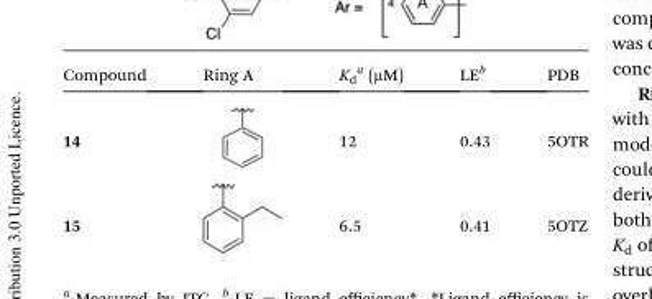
<table><thead><tr><td>Compound</td><td>Ring A</td><td>K<sub>d</sub> <sup>a</sup> (μM)</td><td>LE<sup>b</sup></td><td>PDB</td></tr></thead><tbody><tr><td>14</td><td></td><td>12</td><td>0.43</td><td>5OTR</td></tr><tr><td>15</td><td></td><td>6.5</td><td>0.41</td><td>5OTZ</td></tr></tbody></table>